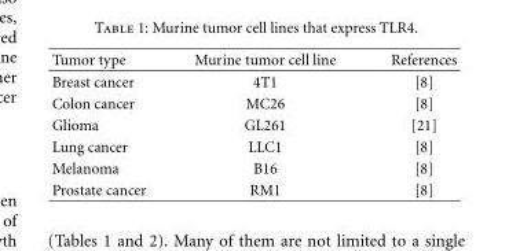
<table><thead><tr><td>Tumor type</td><td>Murine tumor cell line</td><td>References</td></tr></thead><tbody><tr><td>Breast cancer</td><td>4T1</td><td>[8]</td></tr><tr><td>Colon cancer</td><td>MC26</td><td>[8]</td></tr><tr><td>Glioma</td><td>GL261</td><td>[21]</td></tr><tr><td>Lung cancer</td><td>LLC1</td><td>[8]</td></tr><tr><td>Melanoma</td><td>B16</td><td>[8]</td></tr><tr><td>Prostate cancer</td><td>RM1</td><td>[8]</td></tr></tbody></table>